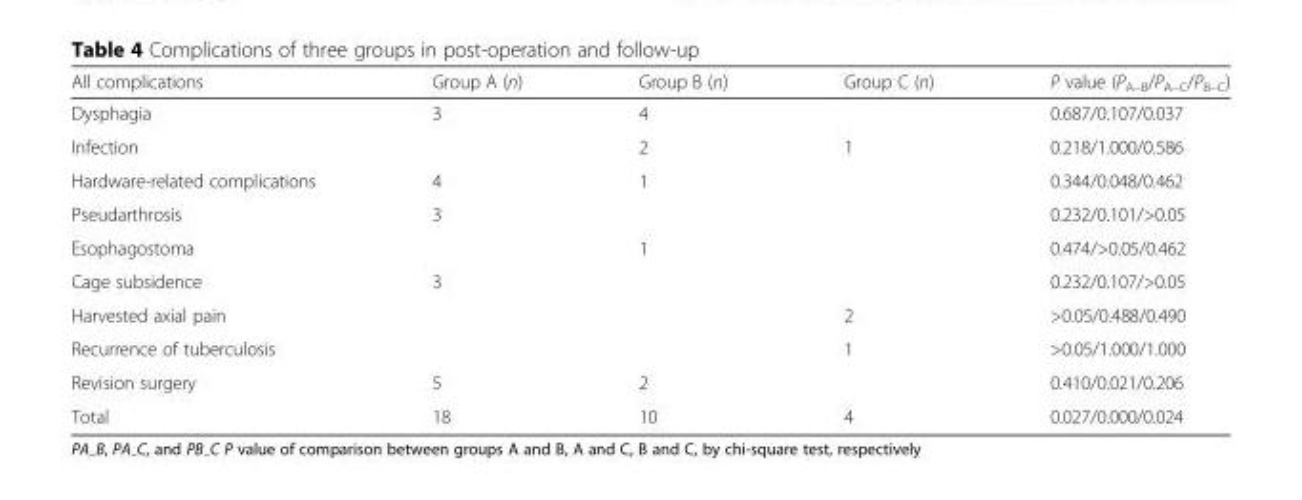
<table><thead><tr><td>All complications</td><td>Group A (n)</td><td>Group B (n)</td><td>Group C (n)</td><td>P value (P<sub>A–B</sub>/P<sub>A–C</sub>/P<sub>B–C</sub>)</td></tr></thead><tbody><tr><td>Dysphagia</td><td>3</td><td>4</td><td></td><td>0.687/0.107/0.037</td></tr><tr><td>Infection</td><td></td><td>2</td><td>1</td><td>0.218/1.000/0.586</td></tr><tr><td>Hardware-related complications</td><td>4</td><td>1</td><td></td><td>0.344/0.048/0.462</td></tr><tr><td>Pseudarthrosis</td><td>3</td><td></td><td></td><td>0.232/0.101/&gt;0.05</td></tr><tr><td>Esophagostoma</td><td></td><td>1</td><td></td><td>0.474/&gt;0.05/0.462</td></tr><tr><td>Cage subsidence</td><td>3</td><td></td><td></td><td>0.232/0.107/&gt;0.05</td></tr><tr><td>Harvested axial pain</td><td></td><td></td><td>2</td><td>&gt;0.05/0.488/0.490</td></tr><tr><td>Recurrence of tuberculosis</td><td></td><td></td><td>1</td><td>&gt;0.05/1.000/1.000</td></tr><tr><td>Revision surgery</td><td>5</td><td>2</td><td></td><td>0.410/0.021/0.206</td></tr><tr><td>Total</td><td>18</td><td>10</td><td>4</td><td>0.027/0.000/0.024</td></tr></tbody></table>